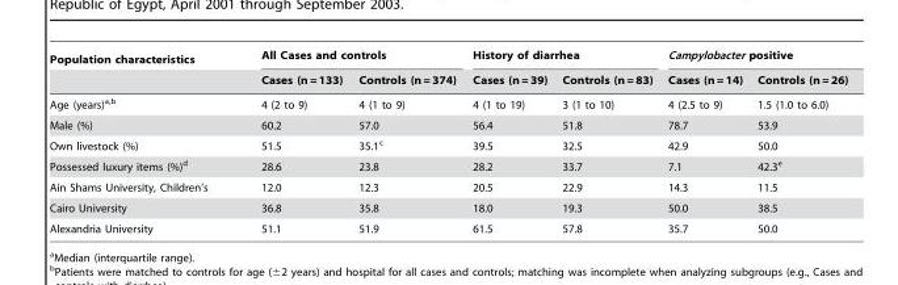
<table><thead><tr><td rowspan="2">Population characteristics</td><td colspan="2">All Cases and controls</td><td colspan="2">History of diarrhea</td><td colspan="2">Campylobacter positive</td></tr><tr><td>Cases (n = 133)</td><td>Controls (n = 374)</td><td>Cases (n = 39)</td><td>Controls (n = 83)</td><td>Cases (n = 14)</td><td>Controls (n = 26)</td></tr></thead><tbody><tr><td>Age (years)<sup>a,</sup>b</td><td>4 (2 to 9)</td><td>4 (1 to 9)</td><td>4 (1 to 19)</td><td>3 (1 to 10)</td><td>4 (2.5 to 9)</td><td>1.5 (1.0 to 6.0)</td></tr><tr><td>Male (%)</td><td>60.2</td><td>57.0</td><td>56.4</td><td>51.8</td><td>78.7</td><td>53.9</td></tr><tr><td>Own livestock (%)</td><td>51.5</td><td>35.1<sup>c</sup></td><td>39.5</td><td>32.5</td><td>42.9</td><td>50.0</td></tr><tr><td>Possessed luxury items (%)<sup>d</sup></td><td>28.6</td><td>23.8</td><td>28.2</td><td>33.7</td><td>7.1</td><td>42.3<sup>e</sup></td></tr><tr><td>Ain Shams University, Children’s</td><td>12.0</td><td>12.3</td><td>20.5</td><td>22.9</td><td>14.3</td><td>11.5</td></tr><tr><td>Cairo University</td><td>36.8</td><td>35.8</td><td>18.0</td><td>19.3</td><td>50.0</td><td>38.5</td></tr><tr><td>Alexandria University</td><td>51.1</td><td>51.9</td><td>61.5</td><td>57.8</td><td>35.7</td><td>50.0</td></tr></tbody></table>